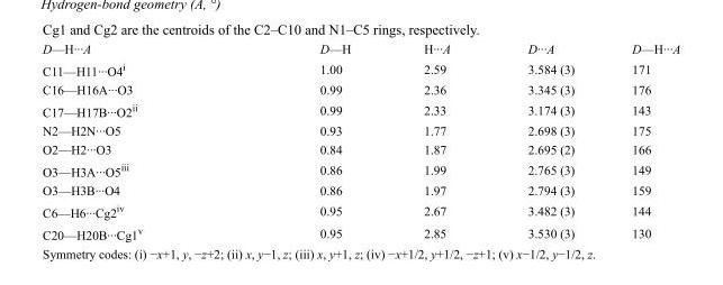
<table><tbody><tr><td>D—H···A</td><td>D—H</td><td>H···A</td><td>D···A</td><td>D—H···A</td></tr><tr><td>C11—H11···O4<sup>i</sup></td><td>1.00</td><td>2.59</td><td>3.584 (3)</td><td>171</td></tr><tr><td>C16—H16A···O3</td><td>0.99</td><td>2.36</td><td>3.345 (3)</td><td>176</td></tr><tr><td>C17—H17B···O2<sup>ii</sup></td><td>0.99</td><td>2.33</td><td>3.174 (3)</td><td>143</td></tr><tr><td>N2—H2N···O5</td><td>0.93</td><td>1.77</td><td>2.698 (3)</td><td>175</td></tr><tr><td>O2—H2···O3</td><td>0.84</td><td>1.87</td><td>2.695 (2)</td><td>166</td></tr><tr><td>O3—H3A···O5<sup>iii</sup></td><td>0.86</td><td>1.99</td><td>2.765 (3)</td><td>149</td></tr><tr><td>O3—H3B···O4</td><td>0.86</td><td>1.97</td><td>2.794 (3)</td><td>159</td></tr><tr><td>C6—H6···Cg2<sup>iv</sup></td><td>0.95</td><td>2.67</td><td>3.482 (3)</td><td>144</td></tr><tr><td>C20—H20B···Cg1<sup>v</sup></td><td>0.95</td><td>2.85</td><td>3.530 (3)</td><td>130</td></tr></tbody></table>